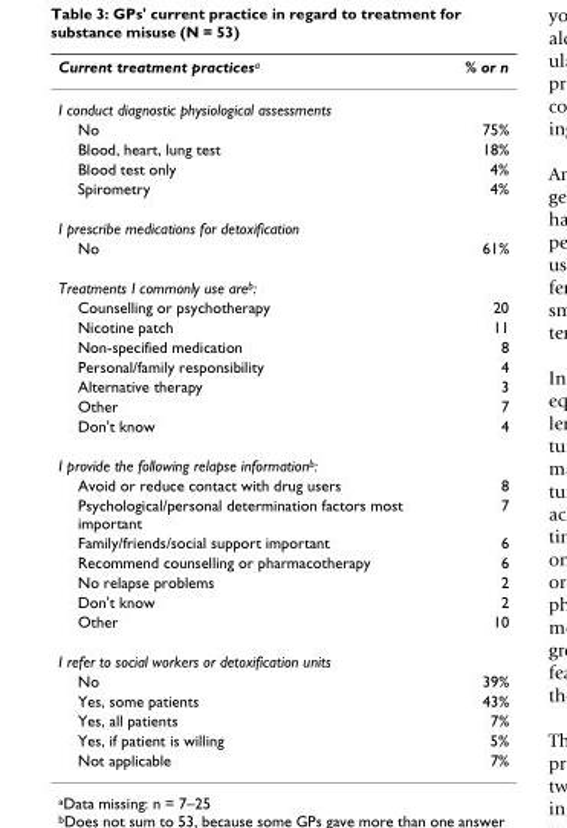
<table><thead><tr><td>Current treatment practices<sup>a</sup></td><td>% or n</td></tr></thead><tbody><tr><td colspan="2">I conduct diagnostic physiological assessments</td></tr><tr><td>No</td><td>75%</td></tr><tr><td>Blood, heart, lung test</td><td>18%</td></tr><tr><td>Blood test only</td><td>4%</td></tr><tr><td>Spirometry</td><td>4%</td></tr><tr><td colspan="2">I prescribe medications for detoxification</td></tr><tr><td>No</td><td>61%</td></tr><tr><td colspan="2">Treatments I commonly use are<sup>b</sup>:</td></tr><tr><td>Counselling or psychotherapy</td><td>20</td></tr><tr><td>Nicotine patch</td><td>11</td></tr><tr><td>Non-specified medication</td><td>8</td></tr><tr><td>Personal/family responsibility</td><td>4</td></tr><tr><td>Alternative therapy</td><td>3</td></tr><tr><td>Other</td><td>7</td></tr><tr><td>Don&#x27;t know</td><td>4</td></tr><tr><td colspan="2">I provide the following relapse information<sup>b</sup>:</td></tr><tr><td>Avoid or reduce contact with drug users</td><td>8</td></tr><tr><td>Psychological/personal determination factors most important</td><td>7</td></tr><tr><td>Family/friends/social support important</td><td>6</td></tr><tr><td>Recommend counselling or pharmacotherapy</td><td>6</td></tr><tr><td>No relapse problems</td><td>2</td></tr><tr><td>Don&#x27;t know</td><td>2</td></tr><tr><td>Other</td><td>10</td></tr><tr><td colspan="2">I refer to social workers or detoxification units</td></tr><tr><td>No</td><td>39%</td></tr><tr><td>Yes, some patients</td><td>43%</td></tr><tr><td>Yes, all patients</td><td>7%</td></tr><tr><td>Yes, if patient is willing</td><td>5%</td></tr><tr><td>Not applicable</td><td>7%</td></tr></tbody></table>